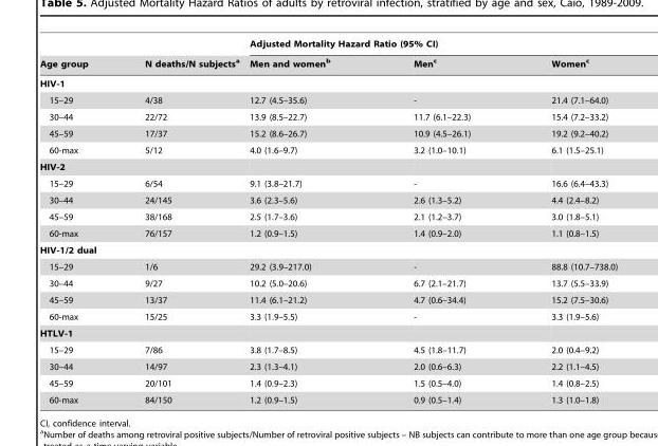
<table><thead><tr><td rowspan="2">Age group</td><td rowspan="2">N deaths/N subjects<sup>a</sup></td><td colspan="3">Adjusted Mortality Hazard Ratio (95% CI)</td></tr><tr><td>Men and women<sup>b</sup></td><td>Men<sup>c</sup></td><td>Women<sup>c</sup></td></tr></thead><tbody><tr><td colspan="5">HIV-1</td></tr><tr><td>15–29</td><td>4/38</td><td>12.7 (4.5–35.6)</td><td>-</td><td>21.4 (7.1–64.0)</td></tr><tr><td>30–44</td><td>22/72</td><td>13.9 (8.5–22.7)</td><td>11.7 (6.1–22.3)</td><td>15.4 (7.2–33.2)</td></tr><tr><td>45–59</td><td>17/37</td><td>15.2 (8.6–26.7)</td><td>10.9 (4.5–26.1)</td><td>19.2 (9.2–40.2)</td></tr><tr><td>60-max</td><td>5/12</td><td>4.0 (1.6–9.7)</td><td>3.2 (1.0–10.1)</td><td>6.1 (1.5–25.1)</td></tr><tr><td colspan="5">HIV-2</td></tr><tr><td>15–29</td><td>6/54</td><td>9.1 (3.8–21.7)</td><td>-</td><td>16.6 (6.4–43.3)</td></tr><tr><td>30–44</td><td>24/145</td><td>3.6 (2.3–5.6)</td><td>2.6 (1.3–5.2)</td><td>4.4 (2.4–8.2)</td></tr><tr><td>45–59</td><td>38/168</td><td>2.5 (1.7–3.6)</td><td>2.1 (1.2–3.7)</td><td>3.0 (1.8–5.1)</td></tr><tr><td>60-max</td><td>76/157</td><td>1.2 (0.9–1.5)</td><td>1.4 (0.9–2.0)</td><td>1.1 (0.8–1.5)</td></tr><tr><td colspan="5">HIV-1/2 dual</td></tr><tr><td>15–29</td><td>1/6</td><td>29.2 (3.9–217.0)</td><td>-</td><td>88.8 (10.7–738.0)</td></tr><tr><td>30–44</td><td>9/27</td><td>10.2 (5.0–20.6)</td><td>6.7 (2.1–21.7)</td><td>13.7 (5.5–33.9)</td></tr><tr><td>45–59</td><td>13/37</td><td>11.4 (6.1–21.2)</td><td>4.7 (0.6–34.4)</td><td>15.2 (7.5–30.6)</td></tr><tr><td>60-max</td><td>15/25</td><td>3.3 (1.9–5.5)</td><td>-</td><td>3.3 (1.9–5.6)</td></tr><tr><td colspan="5">HTLV-1</td></tr><tr><td>15–29</td><td>7/86</td><td>3.8 (1.7–8.5)</td><td>4.5 (1.8–11.7)</td><td>2.0 (0.4–9.2)</td></tr><tr><td>30–44</td><td>14/97</td><td>2.3 (1.3–4.1)</td><td>2.0 (0.6–6.3)</td><td>2.2 (1.1–4.5)</td></tr><tr><td>45–59</td><td>20/101</td><td>1.4 (0.9–2.3)</td><td>1.5 (0.5–4.0)</td><td>1.4 (0.8–2.5)</td></tr><tr><td>60-max</td><td>84/150</td><td>1.2 (0.9–1.5)</td><td>0.9 (0.5–1.4)</td><td>1.3 (1.0–1.8)</td></tr></tbody></table>